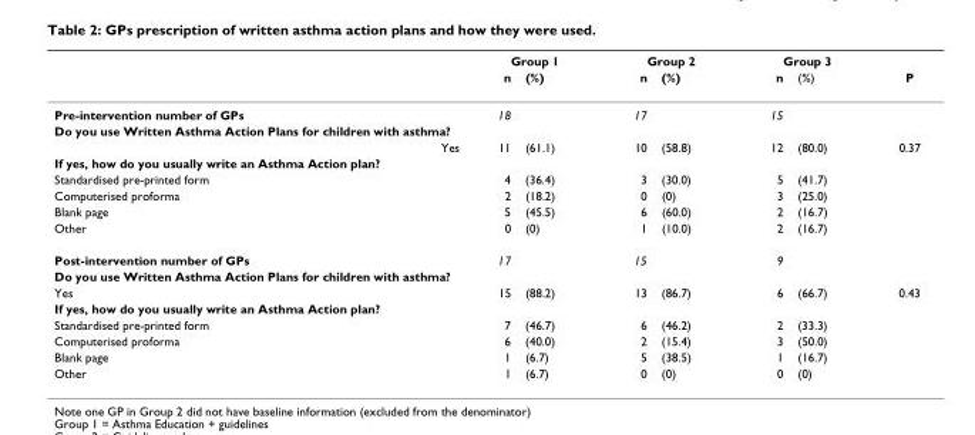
<table><thead><tr><td rowspan="2"></td><td colspan="2">Group 1</td><td colspan="2">Group 2</td><td colspan="2">Group 3</td><td rowspan="2">P</td></tr><tr><td>n</td><td>(%)</td><td>n</td><td>(%)</td><td>n</td><td>(%)</td></tr></thead><tbody><tr><td>Pre-intervention number of GPs</td><td>18</td><td></td><td>17</td><td></td><td>15</td><td></td><td></td></tr><tr><td colspan="8">Do you use Written Asthma Action Plans for children with asthma?</td></tr><tr><td>Yes</td><td>11</td><td>(61.1)</td><td>10</td><td>(58.8)</td><td>12</td><td>(80.0)</td><td>0.37</td></tr><tr><td colspan="8">If yes, how do you usually write an Asthma Action plan?</td></tr><tr><td>Standardised pre-printed form</td><td>4</td><td>(36.4)</td><td>3</td><td>(30.0)</td><td>5</td><td>(41.7)</td><td></td></tr><tr><td>Computerised proforma</td><td>2</td><td>(18.2)</td><td>0</td><td>(0)</td><td>3</td><td>(25.0)</td><td></td></tr><tr><td>Blank page</td><td>5</td><td>(45.5)</td><td>6</td><td>(60.0)</td><td>2</td><td>(16.7)</td><td></td></tr><tr><td>Other</td><td>0</td><td>(0)</td><td>1</td><td>(10.0)</td><td>2</td><td>(16.7)</td><td></td></tr><tr><td>Post-intervention number of GPs</td><td>17</td><td></td><td>15</td><td></td><td>9</td><td></td><td></td></tr><tr><td colspan="8">Do you use Written Asthma Action Plans for children with asthma?</td></tr><tr><td>Yes</td><td>15</td><td>(88.2)</td><td>13</td><td>(86.7)</td><td>6</td><td>(66.7)</td><td>0.43</td></tr><tr><td colspan="8">If yes, how do you usually write an Asthma Action plan?</td></tr><tr><td>Standardised pre-printed form</td><td>7</td><td>(46.7)</td><td>6</td><td>(46.2)</td><td>2</td><td>(33.3)</td><td></td></tr><tr><td>Computerised proforma</td><td>6</td><td>(40.0)</td><td>2</td><td>(15.4)</td><td>3</td><td>(50.0)</td><td></td></tr><tr><td>Blank page</td><td>1</td><td>(6.7)</td><td>5</td><td>(38.5)</td><td>1</td><td>(16.7)</td><td></td></tr><tr><td>Other</td><td>1</td><td>(6.7)</td><td>0</td><td>(0)</td><td>0</td><td>(0)</td><td></td></tr></tbody></table>